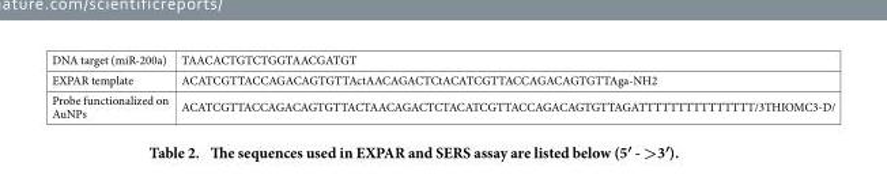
<table><tbody><tr><td>DNA target (miR-200a)</td><td>TAACACTGTCTGGTAACGATGT</td></tr><tr><td>EXPAR template</td><td>ACATCGTTACCAGACAGTGTTActAACAGACTCtACATCGTTACCAGACAGTGTTAga-NH2</td></tr><tr><td>Probe functionalized on AuNPs</td><td>ACATCGTTACCAGACAGTGTTACTAACAGACTCTACATCGTTACCAGACAGTGTTAGATTTTTTTTTTTTTTT/3THIOMC3-D/</td></tr></tbody></table>